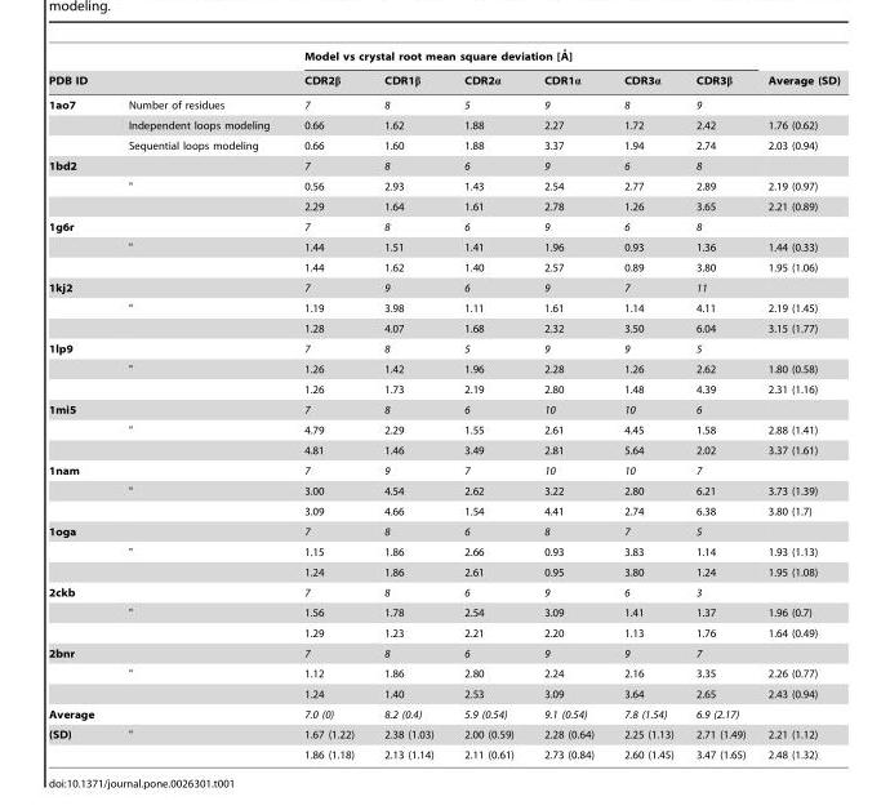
<table><thead><tr><td rowspan="2">PDB ID</td><td rowspan="2"></td><td colspan="6">Model vs crystal root mean square deviation [A˚]</td><td rowspan="2">Average (SD)</td></tr><tr><td>CDR2β</td><td>CDR1β</td><td>CDR2α</td><td>CDR1α</td><td>CDR3α</td><td>CDR3β</td></tr></thead><tbody><tr><td rowspan="3">1ao7</td><td>Number of residues</td><td>7</td><td>8</td><td>5</td><td>9</td><td>8</td><td>9</td><td></td></tr><tr><td>Independent loops modeling</td><td>0.66</td><td>1.62</td><td>1.88</td><td>2.27</td><td>1.72</td><td>2.42</td><td>1.76 (0.62)</td></tr><tr><td>Sequential loops modeling</td><td>0.66</td><td>1.60</td><td>1.88</td><td>3.37</td><td>1.94</td><td>2.74</td><td>2.03 (0.94)</td></tr><tr><td rowspan="3">1bd2</td><td></td><td>7</td><td>8</td><td>6</td><td>9</td><td>6</td><td>8</td><td></td></tr><tr><td>&quot;</td><td>0.56</td><td>2.93</td><td>1.43</td><td>2.54</td><td>2.77</td><td>2.89</td><td>2.19 (0.97)</td></tr><tr><td></td><td>2.29</td><td>1.64</td><td>1.61</td><td>2.78</td><td>1.26</td><td>3.65</td><td>2.21 (0.89)</td></tr><tr><td rowspan="3">1g6r</td><td></td><td>7</td><td>8</td><td>6</td><td>9</td><td>6</td><td>8</td><td></td></tr><tr><td>&quot;</td><td>1.44</td><td>1.51</td><td>1.41</td><td>1.96</td><td>0.93</td><td>1.36</td><td>1.44 (0.33)</td></tr><tr><td></td><td>1.44</td><td>1.62</td><td>1.40</td><td>2.57</td><td>0.89</td><td>3.80</td><td>1.95 (1.06)</td></tr><tr><td rowspan="3">1kj2</td><td></td><td>7</td><td>9</td><td>6</td><td>9</td><td>7</td><td>11</td><td></td></tr><tr><td>&quot;</td><td>1.19</td><td>3.98</td><td>1.11</td><td>1.61</td><td>1.14</td><td>4.11</td><td>2.19 (1.45)</td></tr><tr><td></td><td>1.28</td><td>4.07</td><td>1.68</td><td>2.32</td><td>3.50</td><td>6.04</td><td>3.15 (1.77)</td></tr><tr><td rowspan="3">1lp9</td><td></td><td>7</td><td>8</td><td>5</td><td>9</td><td>9</td><td>5</td><td></td></tr><tr><td>&quot;</td><td>1.26</td><td>1.42</td><td>1.96</td><td>2.28</td><td>1.26</td><td>2.62</td><td>1.80 (0.58)</td></tr><tr><td></td><td>1.26</td><td>1.73</td><td>2.19</td><td>2.80</td><td>1.48</td><td>4.39</td><td>2.31 (1.16)</td></tr><tr><td rowspan="3">1mi5</td><td></td><td>7</td><td>8</td><td>6</td><td>10</td><td>10</td><td>6</td><td></td></tr><tr><td>&quot;</td><td>4.79</td><td>2.29</td><td>1.55</td><td>2.61</td><td>4.45</td><td>1.58</td><td>2.88 (1.41)</td></tr><tr><td></td><td>4.81</td><td>1.46</td><td>3.49</td><td>2.81</td><td>5.64</td><td>2.02</td><td>3.37 (1.61)</td></tr><tr><td rowspan="3">1nam</td><td></td><td>7</td><td>9</td><td>7</td><td>10</td><td>10</td><td>7</td><td></td></tr><tr><td>&quot;</td><td>3.00</td><td>4.54</td><td>2.62</td><td>3.22</td><td>2.80</td><td>6.21</td><td>3.73 (1.39)</td></tr><tr><td></td><td>3.09</td><td>4.66</td><td>1.54</td><td>4.41</td><td>2.74</td><td>6.38</td><td>3.80 (1.7)</td></tr><tr><td rowspan="3">1oga</td><td></td><td>7</td><td>8</td><td>6</td><td>8</td><td>7</td><td>5</td><td></td></tr><tr><td>&quot;</td><td>1.15</td><td>1.86</td><td>2.66</td><td>0.93</td><td>3.83</td><td>1.14</td><td>1.93 (1.13)</td></tr><tr><td></td><td>1.24</td><td>1.86</td><td>2.61</td><td>0.95</td><td>3.80</td><td>1.24</td><td>1.95 (1.08)</td></tr><tr><td rowspan="3">2ckb</td><td></td><td>7</td><td>8</td><td>6</td><td>9</td><td>6</td><td>3</td><td></td></tr><tr><td>&quot;</td><td>1.56</td><td>1.78</td><td>2.54</td><td>3.09</td><td>1.41</td><td>1.37</td><td>1.96 (0.7)</td></tr><tr><td></td><td>1.29</td><td>1.23</td><td>2.21</td><td>2.20</td><td>1.13</td><td>1.76</td><td>1.64 (0.49)</td></tr><tr><td rowspan="3">2bnr</td><td></td><td>7</td><td>8</td><td>6</td><td>9</td><td>9</td><td>7</td><td></td></tr><tr><td>&quot;</td><td>1.12</td><td>1.86</td><td>2.80</td><td>2.24</td><td>2.16</td><td>3.35</td><td>2.26 (0.77)</td></tr><tr><td></td><td>1.24</td><td>1.40</td><td>2.53</td><td>3.09</td><td>3.64</td><td>2.65</td><td>2.43 (0.94)</td></tr><tr><td>Average</td><td></td><td>7.0 (0)</td><td>8.2 (0.4)</td><td>5.9 (0.54)</td><td>9.1 (0.54)</td><td>7.8 (1.54)</td><td>6.9 (2.17)</td><td></td></tr><tr><td rowspan="2">(SD)</td><td>&quot;</td><td>1.67 (1.22)</td><td>2.38 (1.03)</td><td>2.00 (0.59)</td><td>2.28 (0.64)</td><td>2.25 (1.13)</td><td>2.71 (1.49)</td><td>2.21 (1.12)</td></tr><tr><td></td><td>1.86 (1.18)</td><td>2.13 (1.14)</td><td>2.11 (0.61)</td><td>2.73 (0.84)</td><td>2.60 (1.45)</td><td>3.47 (1.65)</td><td>2.48 (1.32)</td></tr></tbody></table>